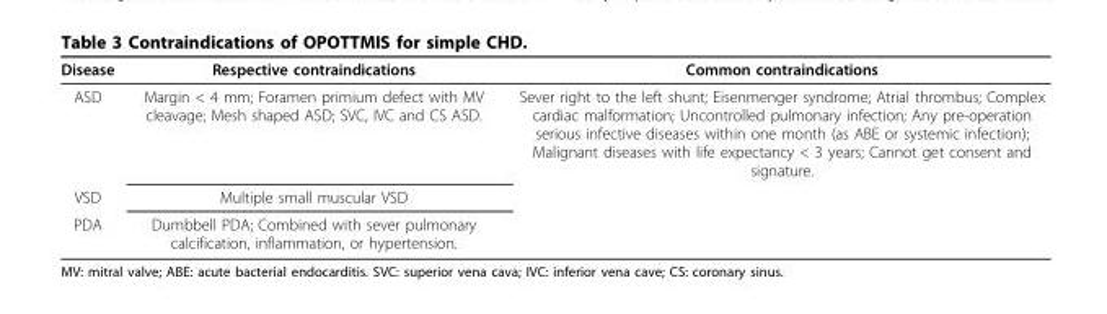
<table><thead><tr><td>Disease</td><td>Respective contraindications</td><td>Common contraindications</td></tr></thead><tbody><tr><td>ASD</td><td>Margin &lt; 4 mm; Foramen primium defect with MV cleavage; Mesh shaped ASD; SVC, IVC and CS ASD.</td><td>Sever right to the left shunt; Eisenmenger syndrome; Atrial thrombus; Complex cardiac malformation; Uncontrolled pulmonary infection; Any pre-operation serious infective diseases within one month (as ABE or systemic infection); Malignant diseases with life expectancy &lt; 3 years; Cannot get consent and signature.</td></tr><tr><td>VSD</td><td>Multiple small muscular VSD</td><td></td></tr><tr><td>PDA</td><td>Dumbbell PDA; Combined with sever pulmonary calcification, inflammation, or hypertension.</td><td></td></tr></tbody></table>